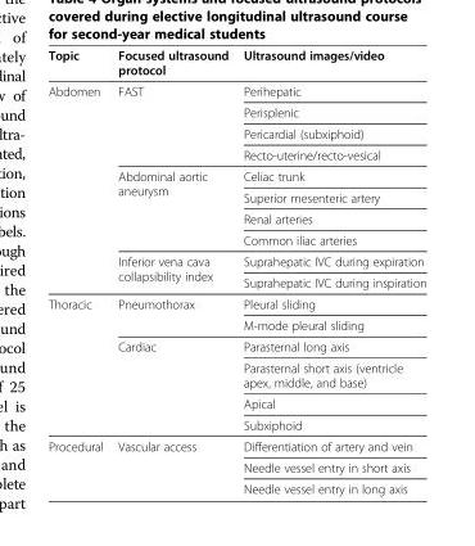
<table><thead><tr><td>Topic</td><td>Focused ultrasound protocol</td><td>Ultrasound images/video</td></tr></thead><tbody><tr><td rowspan="10">Abdomen</td><td rowspan="4">FAST</td><td>Perihepatic</td></tr><tr><td>Perisplenic</td></tr><tr><td>Pericardial (subxiphoid)</td></tr><tr><td>Recto-uterine/recto-vesical</td></tr><tr><td rowspan="4">Abdominal aortic aneurysm</td><td>Celiac trunk</td></tr><tr><td>Superior mesenteric artery</td></tr><tr><td>Renal arteries</td></tr><tr><td>Common iliac arteries</td></tr><tr><td rowspan="2">Inferior vena cava collapsibility index</td><td>Suprahepatic IVC during expiration</td></tr><tr><td>Suprahepatic IVC during inspiration</td></tr><tr><td rowspan="6">Thoracic</td><td rowspan="2">Pneumothorax</td><td>Pleural sliding</td></tr><tr><td>M-mode pleural sliding</td></tr><tr><td rowspan="4">Cardiac</td><td>Parasternal long axis</td></tr><tr><td>Parasternal short axis (ventricle apex, middle, and base)</td></tr><tr><td>Apical</td></tr><tr><td>Subxiphoid</td></tr><tr><td rowspan="3">Procedural</td><td rowspan="3">Vascular access</td><td>Differentiation of artery and vein</td></tr><tr><td>Needle vessel entry in short axis</td></tr><tr><td>Needle vessel entry in long axis</td></tr></tbody></table>